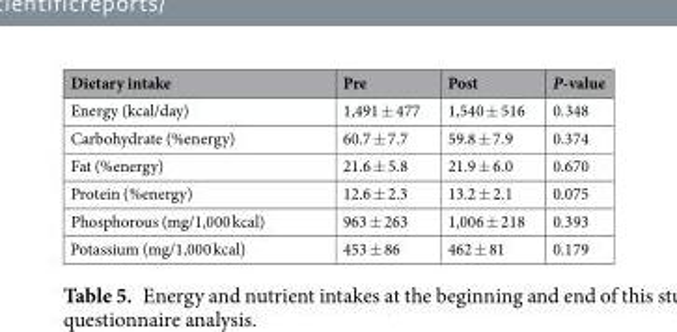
<table><thead><tr><td>Dietary intake</td><td>Pre</td><td>Post</td><td>P-value</td></tr></thead><tbody><tr><td>Energy (kcal/day)</td><td>1,491 ± 477</td><td>1,540 ± 516</td><td>0.348</td></tr><tr><td>Carbohydrate (%energy)</td><td>60.7 ± 7.7</td><td>59.8 ± 7.9</td><td>0.374</td></tr><tr><td>Fat (%energy)</td><td>21.6 ± 5.8</td><td>21.9 ± 6.0</td><td>0.670</td></tr><tr><td>Protein (%energy)</td><td>12.6 ± 2.3</td><td>13.2 ± 2.1</td><td>0.075</td></tr><tr><td>Phosphorous (mg/1,000 kcal)</td><td>963 ± 263</td><td>1,006 ± 218</td><td>0.393</td></tr><tr><td>Potassium (mg/1,000 kcal)</td><td>453 ± 86</td><td>462 ± 81</td><td>0.179</td></tr></tbody></table>